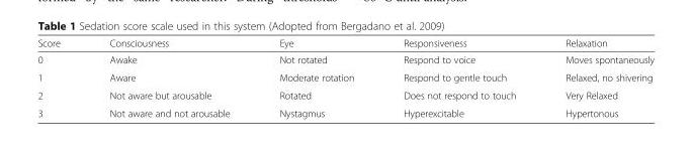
<table><thead><tr><td>Score</td><td>Consciousness</td><td>Eye</td><td>Responsiveness</td><td>Relaxation</td></tr></thead><tbody><tr><td>0</td><td>Awake</td><td>Not rotated</td><td>Respond to voice</td><td>Moves spontaneously</td></tr><tr><td>1</td><td>Aware</td><td>Moderate rotation</td><td>Respond to gentle touch</td><td>Relaxed, no shivering</td></tr><tr><td>2</td><td>Not aware but arousable</td><td>Rotated</td><td>Does not respond to touch</td><td>Very Relaxed</td></tr><tr><td>3</td><td>Not aware and not arousable</td><td>Nystagmus</td><td>Hyperexcitable</td><td>Hypertonous</td></tr></tbody></table>